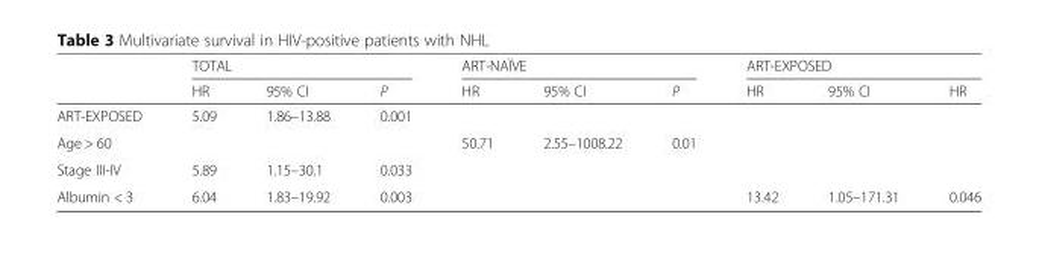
<table><thead><tr><td rowspan="2"></td><td colspan="3">TOTAL</td><td colspan="3">ART-NAÏVE</td><td colspan="3">ART-EXPOSED</td></tr><tr><td>HR</td><td>95% CI</td><td>P</td><td>HR</td><td>95% CI</td><td>P</td><td>HR</td><td>95% CI</td><td>HR</td></tr></thead><tbody><tr><td>ART-EXPOSED</td><td>5.09</td><td>1.86–13.88</td><td>0.001</td><td></td><td></td><td></td><td></td><td></td><td></td></tr><tr><td>Age &gt; 60</td><td></td><td></td><td></td><td>50.71</td><td>2.55–1008.22</td><td>0.01</td><td></td><td></td><td></td></tr><tr><td>Stage III-IV</td><td>5.89</td><td>1.15–30.1</td><td>0.033</td><td></td><td></td><td></td><td></td><td></td><td></td></tr><tr><td>Albumin &lt; 3</td><td>6.04</td><td>1.83–19.92</td><td>0.003</td><td></td><td></td><td></td><td>13.42</td><td>1.05–171.31</td><td>0.046</td></tr></tbody></table>